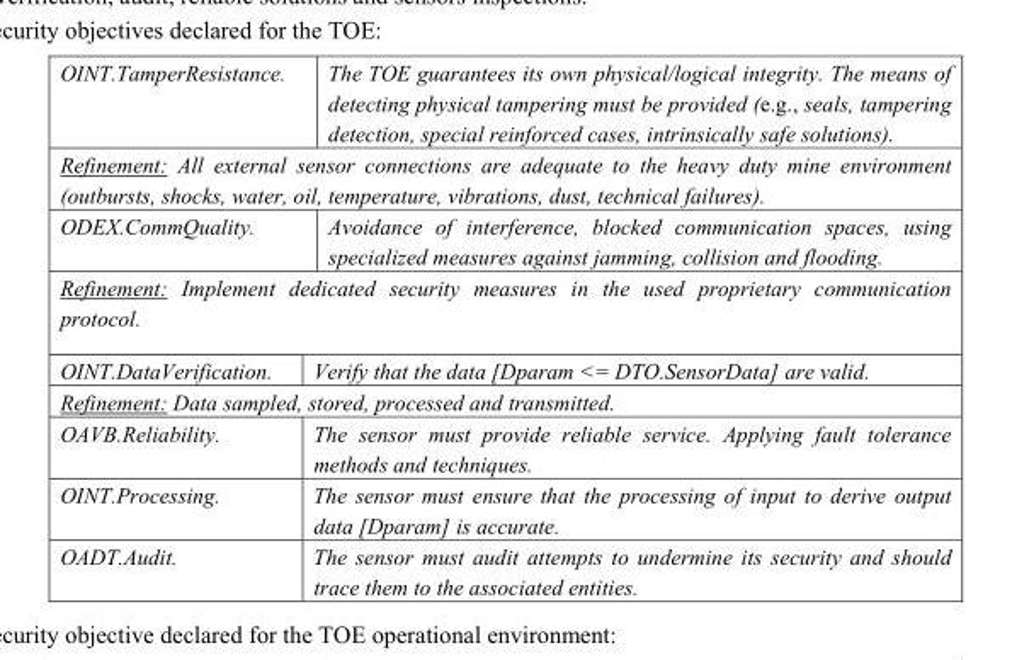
<table><tbody><tr><td>OINT.TamperResistance.</td><td>The TOE guarantees its own physical/logical integrity. The means of detecting physical tampering must be provided (e.g., seals, tampering detection, special reinforced cases, intrinsically safe solutions).</td></tr><tr><td colspan="2">Refinement: All external sensor connections are adequate to the heavy duty mine environment (outbursts, shocks, water, oil, temperature, vibrations, dust, technical failures).</td></tr><tr><td>ODEX.CommQuality.</td><td>Avoidance of interference, blocked communication spaces, using specialized measures against jamming, collision and flooding.</td></tr><tr><td colspan="2">Refinement: Implement dedicated security measures in the used proprietary communication protocol.</td></tr><tr><td>OINT.DataVerification.</td><td>Verify that the data [Dparam &lt;= DTO.SensorData] are valid.</td></tr><tr><td colspan="2">Refinement: Data sampled, stored, processed and transmitted.</td></tr><tr><td>OAVB.Reliability.</td><td>The sensor must provide reliable service. Applying fault tolerance methods and techniques.</td></tr><tr><td>OINT.Processing.</td><td>The sensor must ensure that the processing of input to derive output data [Dparam] is accurate.</td></tr><tr><td>OADT.Audit.</td><td>The sensor must audit attempts to undermine its security and should trace them to the associated entities.</td></tr></tbody></table>